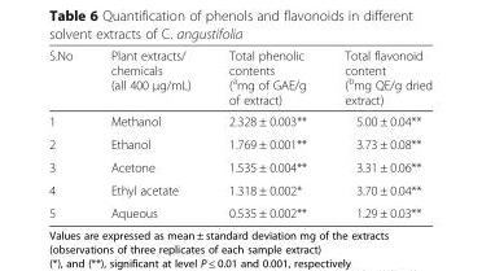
<table><thead><tr><td>S.No</td><td>Plant extracts/ chemicals (all 400 μg/mL)</td><td>Total phenolic contents (<sup>a</sup>mg of GAE/g of extract)</td><td>Total flavonoid content (<sup>b</sup>mg QE/g dried extract)</td></tr></thead><tbody><tr><td>1</td><td>Methanol</td><td>2.328 ± 0.003**</td><td>5.00 ± 0.04**</td></tr><tr><td>2</td><td>Ethanol</td><td>1.769 ± 0.001**</td><td>3.73 ± 0.08**</td></tr><tr><td>3</td><td>Acetone</td><td>1.535 ± 0.004**</td><td>3.31 ± 0.06**</td></tr><tr><td>4</td><td>Ethyl acetate</td><td>1.318 ± 0.002*</td><td>3.70 ± 0.04**</td></tr><tr><td>5</td><td>Aqueous</td><td>0.535 ± 0.002**</td><td>1.29 ± 0.03**</td></tr></tbody></table>